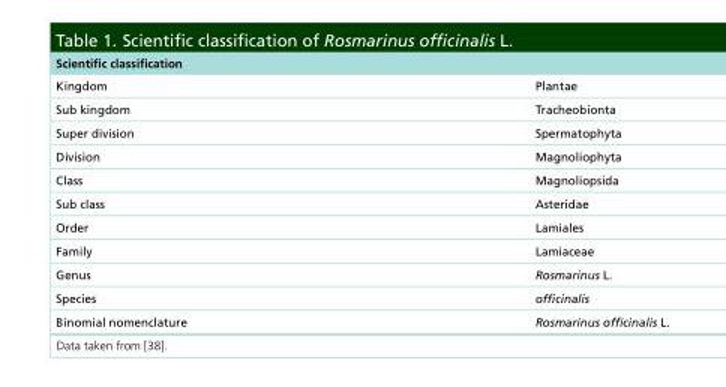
<table><thead><tr><td colspan="2">Scientific classification</td></tr><tr><td>Kingdom</td><td>Plantae</td></tr></thead><tbody><tr><td>Sub kingdom</td><td>Tracheobionta</td></tr><tr><td>Super division</td><td>Spermatophyta</td></tr><tr><td>Division</td><td>Magnoliophyta</td></tr><tr><td>Class</td><td>Magnoliopsida</td></tr><tr><td>Sub class</td><td>Asteridae</td></tr><tr><td>Order</td><td>Lamiales</td></tr><tr><td>Family</td><td>Lamiaceae</td></tr><tr><td>Genus</td><td>Rosmarinus L.</td></tr><tr><td>Species</td><td>officinalis</td></tr><tr><td>Binomial nomenclature</td><td>Rosmarinus officinalis L.</td></tr></tbody></table>